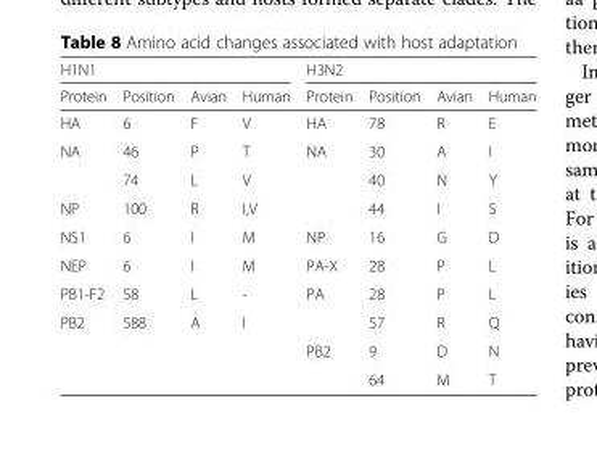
<table><thead><tr><td colspan="4">H1N1</td><td colspan="4">H3N2</td></tr><tr><td>Protein</td><td>Position</td><td>Avian</td><td>Human</td><td>Protein</td><td>Position</td><td>Avian</td><td>Human</td></tr></thead><tbody><tr><td>HA</td><td>6</td><td>F</td><td>V</td><td>HA</td><td>78</td><td>R</td><td>E</td></tr><tr><td rowspan="2">NA</td><td>46</td><td>P</td><td>T</td><td>NA</td><td>30</td><td>A</td><td>I</td></tr><tr><td>74</td><td>L</td><td>V</td><td></td><td>40</td><td>N</td><td>Y</td></tr><tr><td>NP</td><td>100</td><td>R</td><td>I,V</td><td></td><td>44</td><td>I</td><td>S</td></tr><tr><td>NS1</td><td>6</td><td>I</td><td>M</td><td>NP</td><td>16</td><td>G</td><td>D</td></tr><tr><td>NEP</td><td>6</td><td>I</td><td>M</td><td>PA-X</td><td>28</td><td>P</td><td>L</td></tr><tr><td>PB1-F2</td><td>58</td><td>L</td><td>-</td><td>PA</td><td>28</td><td>P</td><td>L</td></tr><tr><td rowspan="3">PB2</td><td>588</td><td>A</td><td>I</td><td></td><td>57</td><td>R</td><td>Q</td></tr><tr><td></td><td></td><td></td><td>PB2</td><td>9</td><td>D</td><td>N</td></tr><tr><td></td><td></td><td></td><td></td><td>64</td><td>M</td><td>T</td></tr></tbody></table>